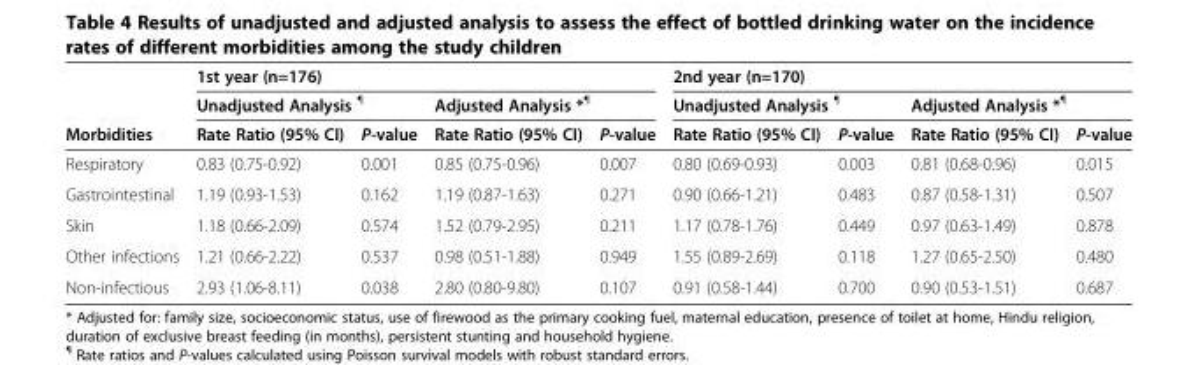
<table><thead><tr><td rowspan="3">Morbidities</td><td rowspan="2" colspan="2">1st year (n=176) Unadjusted Analysis <sup>¶</sup></td><td></td><td></td><td rowspan="2" colspan="2">2nd year (n=170) Unadjusted Analysis <sup>¶</sup></td><td></td><td></td></tr><tr><td colspan="2">Adjusted Analysis *<sup>¶</sup></td><td colspan="2">Adjusted Analysis *<sup>¶</sup></td></tr><tr><td>Rate Ratio (95% CI)</td><td>P-value</td><td>Rate Ratio (95% CI)</td><td>P-value</td><td>Rate Ratio (95% CI)</td><td>P-value</td><td>Rate Ratio (95% CI)</td><td>P-value</td></tr></thead><tbody><tr><td>Respiratory</td><td>0.83 (0.75-0.92)</td><td>0.001</td><td>0.85 (0.75-0.96)</td><td>0.007</td><td>0.80 (0.69-0.93)</td><td>0.003</td><td>0.81 (0.68-0.96)</td><td>0.015</td></tr><tr><td>Gastrointestinal</td><td>1.19 (0.93-1.53)</td><td>0.162</td><td>1.19 (0.87-1.63)</td><td>0.271</td><td>0.90 (0.66-1.21)</td><td>0.483</td><td>0.87 (0.58-1.31)</td><td>0.507</td></tr><tr><td>Skin</td><td>1.18 (0.66-2.09)</td><td>0.574</td><td>1.52 (0.79-2.95)</td><td>0.211</td><td>1.17 (0.78-1.76)</td><td>0.449</td><td>0.97 (0.63-1.49)</td><td>0.878</td></tr><tr><td>Other infections</td><td>1.21 (0.66-2.22)</td><td>0.537</td><td>0.98 (0.51-1.88)</td><td>0.949</td><td>1.55 (0.89-2.69)</td><td>0.118</td><td>1.27 (0.65-2.50)</td><td>0.480</td></tr><tr><td>Non-infectious</td><td>2.93 (1.06-8.11)</td><td>0.038</td><td>2.80 (0.80-9.80)</td><td>0.107</td><td>0.91 (0.58-1.44)</td><td>0.700</td><td>0.90 (0.53-1.51)</td><td>0.687</td></tr></tbody></table>